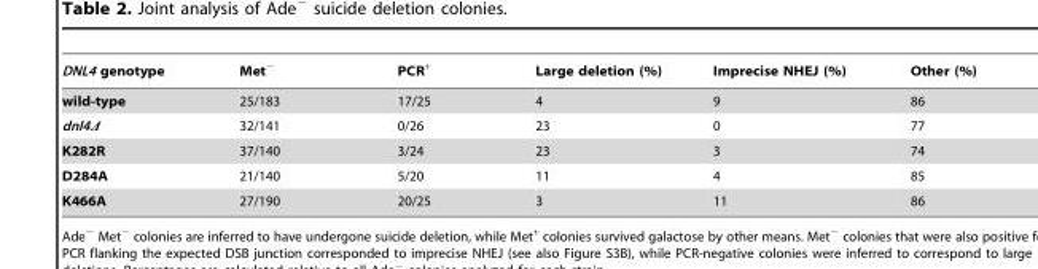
<table><thead><tr><td>DNL4 genotype</td><td>Met<sup>−</sup></td><td>PCR<sup>+</sup></td><td>Large deletion (%)</td><td>Imprecise NHEJ (%)</td><td>Other (%)</td></tr></thead><tbody><tr><td>wild-type</td><td>25/183</td><td>17/25</td><td>4</td><td>9</td><td>86</td></tr><tr><td>dnl4Δ</td><td>32/141</td><td>0/26</td><td>23</td><td>0</td><td>77</td></tr><tr><td>K282R</td><td>37/140</td><td>3/24</td><td>23</td><td>3</td><td>74</td></tr><tr><td>D284A</td><td>21/140</td><td>5/20</td><td>11</td><td>4</td><td>85</td></tr><tr><td>K466A</td><td>27/190</td><td>20/25</td><td>3</td><td>11</td><td>86</td></tr></tbody></table>